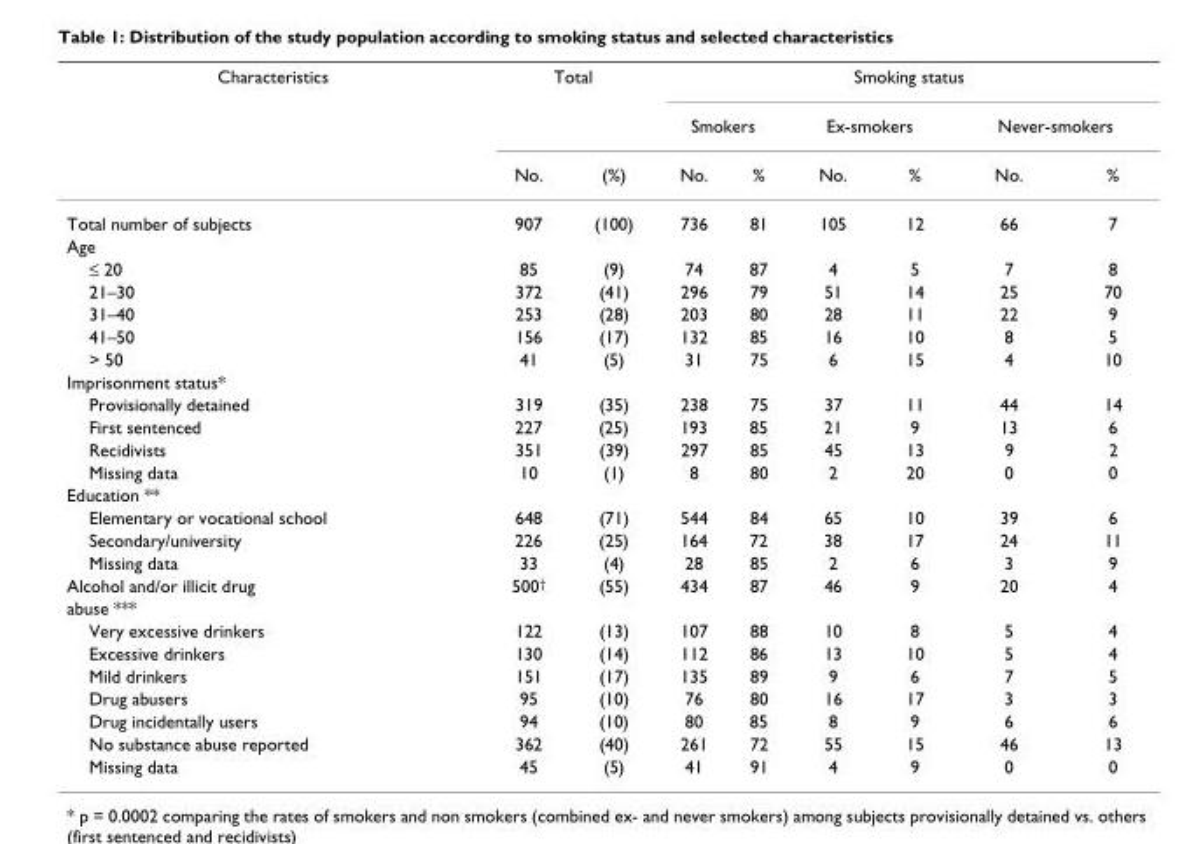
<table><thead><tr><td rowspan="3">Characteristics</td><td colspan="2">Total</td><td colspan="6">Smoking status</td></tr><tr><td rowspan="2">No.</td><td rowspan="2">(%)</td><td colspan="2">Smokers</td><td colspan="2">Ex-smokers</td><td colspan="2">Never-smokers</td></tr><tr><td>No.</td><td>%</td><td>No.</td><td>%</td><td>No.</td><td>%</td></tr></thead><tbody><tr><td>Total number of subjects</td><td>907</td><td>(100)</td><td>736</td><td>81</td><td>105</td><td>12</td><td>66</td><td>7</td></tr><tr><td colspan="9">Age</td></tr><tr><td>≤ 20</td><td>85</td><td>(9)</td><td>74</td><td>87</td><td>4</td><td>5</td><td>7</td><td>8</td></tr><tr><td>21–30</td><td>372</td><td>(41)</td><td>296</td><td>79</td><td>51</td><td>14</td><td>25</td><td>70</td></tr><tr><td>31–40</td><td>253</td><td>(28)</td><td>203</td><td>80</td><td>28</td><td>11</td><td>22</td><td>9</td></tr><tr><td>41–50</td><td>156</td><td>(17)</td><td>132</td><td>85</td><td>16</td><td>10</td><td>8</td><td>5</td></tr><tr><td>&gt; 50</td><td>41</td><td>(5)</td><td>31</td><td>75</td><td>6</td><td>15</td><td>4</td><td>10</td></tr><tr><td colspan="9">Imprisonment status*</td></tr><tr><td>Provisionally detained</td><td>319</td><td>(35)</td><td>238</td><td>75</td><td>37</td><td>11</td><td>44</td><td>14</td></tr><tr><td>First sentenced</td><td>227</td><td>(25)</td><td>193</td><td>85</td><td>21</td><td>9</td><td>13</td><td>6</td></tr><tr><td>Recidivists</td><td>351</td><td>(39)</td><td>297</td><td>85</td><td>45</td><td>13</td><td>9</td><td>2</td></tr><tr><td>Missing data</td><td>10</td><td>(1)</td><td>8</td><td>80</td><td>2</td><td>20</td><td>0</td><td>0</td></tr><tr><td colspan="9">Education **</td></tr><tr><td>Elementary or vocational school</td><td>648</td><td>(71)</td><td>544</td><td>84</td><td>65</td><td>10</td><td>39</td><td>6</td></tr><tr><td>Secondary/university</td><td>226</td><td>(25)</td><td>164</td><td>72</td><td>38</td><td>17</td><td>24</td><td>11</td></tr><tr><td>Missing data</td><td>33</td><td>(4)</td><td>28</td><td>85</td><td>2</td><td>6</td><td>3</td><td>9</td></tr><tr><td>Alcohol and/or illicit drug</td><td>500†</td><td>(55)</td><td>434</td><td>87</td><td>46</td><td>9</td><td>20</td><td>4</td></tr><tr><td colspan="9">abuse ***</td></tr><tr><td>Very excessive drinkers</td><td>122</td><td>(13)</td><td>107</td><td>88</td><td>10</td><td>8</td><td>5</td><td>4</td></tr><tr><td>Excessive drinkers</td><td>130</td><td>(14)</td><td>112</td><td>86</td><td>13</td><td>10</td><td>5</td><td>4</td></tr><tr><td>Mild drinkers</td><td>151</td><td>(17)</td><td>135</td><td>89</td><td>9</td><td>6</td><td>7</td><td>5</td></tr><tr><td>Drug abusers</td><td>95</td><td>(10)</td><td>76</td><td>80</td><td>16</td><td>17</td><td>3</td><td>3</td></tr><tr><td>Drug incidentally users</td><td>94</td><td>(10)</td><td>80</td><td>85</td><td>8</td><td>9</td><td>6</td><td>6</td></tr><tr><td>No substance abuse reported</td><td>362</td><td>(40)</td><td>261</td><td>72</td><td>55</td><td>15</td><td>46</td><td>13</td></tr><tr><td>Missing data</td><td>45</td><td>(5)</td><td>41</td><td>91</td><td>4</td><td>9</td><td>0</td><td>0</td></tr></tbody></table>